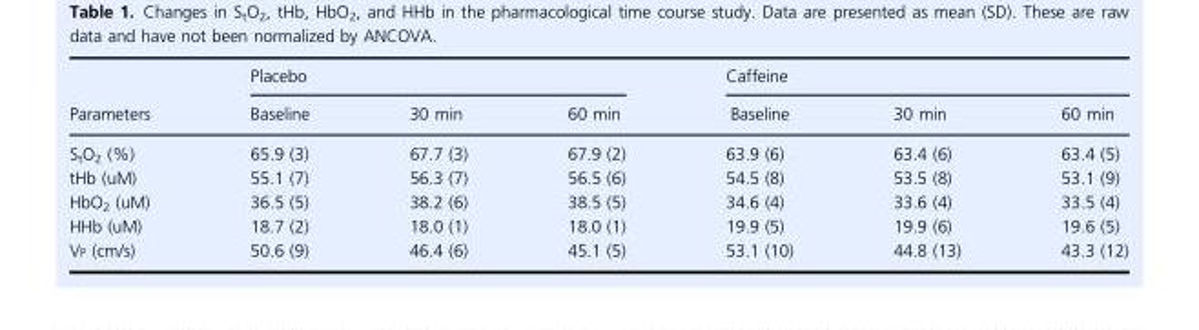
<table><thead><tr><td rowspan="2">Parameters</td><td colspan="3">Placebo</td><td colspan="3">Caffeine</td></tr><tr><td>Baseline</td><td>30 min</td><td>60 min</td><td>Baseline</td><td>30 min</td><td>60 min</td></tr></thead><tbody><tr><td>S<sub>t</sub>O<sub>2</sub> (%)</td><td>65.9 (3)</td><td>67.7 (3)</td><td>67.9 (2)</td><td>63.9 (6)</td><td>63.4 (6)</td><td>63.4 (5)</td></tr><tr><td>tHb (uM)</td><td>55.1 (7)</td><td>56.3 (7)</td><td>56.5 (6)</td><td>54.5 (8)</td><td>53.5 (8)</td><td>53.1 (9)</td></tr><tr><td>HbO<sub>2</sub> (uM)</td><td>36.5 (5)</td><td>38.2 (6)</td><td>38.5 (5)</td><td>34.6 (4)</td><td>33.6 (4)</td><td>33.5 (4)</td></tr><tr><td>HHb (uM)</td><td>18.7 (2)</td><td>18.0 (1)</td><td>18.0 (1)</td><td>19.9 (5)</td><td>19.9 (6)</td><td>19.6 (5)</td></tr><tr><td>VP (cm/s)</td><td>50.6 (9)</td><td>46.4 (6)</td><td>45.1 (5)</td><td>53.1 (10)</td><td>44.8 (13)</td><td>43.3 (12)</td></tr></tbody></table>